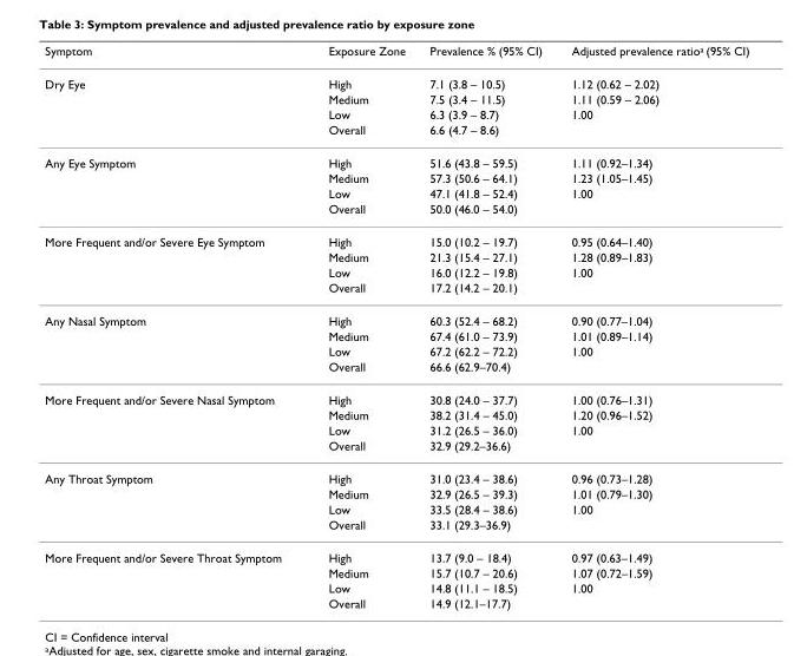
<table><thead><tr><td>Symptom</td><td>Exposure Zone</td><td>Prevalence % (95% CI)</td><td>Adjusted prevalence ratio<sup>a</sup> (95% CI)</td></tr></thead><tbody><tr><td rowspan="4">Dry Eye</td><td>High</td><td>7.1 (3.8 – 10.5)</td><td>1.12 (0.62 – 2.02)</td></tr><tr><td>Medium</td><td>7.5 (3.4 – 11.5)</td><td>1.11 (0.59 – 2.06)</td></tr><tr><td>Low</td><td>6.3 (3.9 – 8.7)</td><td>1.00</td></tr><tr><td>Overall</td><td>6.6 (4.7 – 8.6)</td><td></td></tr><tr><td rowspan="4">Any Eye Symptom</td><td>High</td><td>51.6 (43.8 – 59.5)</td><td>1.11 (0.92–1.34)</td></tr><tr><td>Medium</td><td>57.3 (50.6 – 64.1)</td><td>1.23 (1.05–1.45)</td></tr><tr><td>Low</td><td>47.1 (41.8 – 52.4)</td><td>1.00</td></tr><tr><td>Overall</td><td>50.0 (46.0 – 54.0)</td><td></td></tr><tr><td rowspan="4">More Frequent and/or Severe Eye Symptom</td><td>High</td><td>15.0 (10.2 – 19.7)</td><td>0.95 (0.64–1.40)</td></tr><tr><td>Medium</td><td>21.3 (15.4 – 27.1)</td><td>1.28 (0.89–1.83)</td></tr><tr><td>Low</td><td>16.0 (12.2 – 19.8)</td><td>1.00</td></tr><tr><td>Overall</td><td>17.2 (14.2 – 20.1)</td><td></td></tr><tr><td rowspan="4">Any Nasal Symptom</td><td>High</td><td>60.3 (52.4 – 68.2)</td><td>0.90 (0.77–1.04)</td></tr><tr><td>Medium</td><td>67.4 (61.0 – 73.9)</td><td>1.01 (0.89–1.14)</td></tr><tr><td>Low</td><td>67.2 (62.2 – 72.2)</td><td>1.00</td></tr><tr><td>Overall</td><td>66.6 (62.9–70.4)</td><td></td></tr><tr><td rowspan="4">More Frequent and/or Severe Nasal Symptom</td><td>High</td><td>30.8 (24.0 – 37.7)</td><td>1.00 (0.76–1.31)</td></tr><tr><td>Medium</td><td>38.2 (31.4 – 45.0)</td><td>1.20 (0.96–1.52)</td></tr><tr><td>Low</td><td>31.2 (26.5 – 36.0)</td><td>1.00</td></tr><tr><td>Overall</td><td>32.9 (29.2–36.6)</td><td></td></tr><tr><td rowspan="4">Any Throat Symptom</td><td>High</td><td>31.0 (23.4 – 38.6)</td><td>0.96 (0.73–1.28)</td></tr><tr><td>Medium</td><td>32.9 (26.5 – 39.3)</td><td>1.01 (0.79–1.30)</td></tr><tr><td>Low</td><td>33.5 (28.4 – 38.6)</td><td>1.00</td></tr><tr><td>Overall</td><td>33.1 (29.3–36.9)</td><td></td></tr><tr><td rowspan="4">More Frequent and/or Severe Throat Symptom</td><td>High</td><td>13.7 (9.0 – 18.4)</td><td>0.97 (0.63–1.49)</td></tr><tr><td>Medium</td><td>15.7 (10.7 – 20.6)</td><td>1.07 (0.72–1.59)</td></tr><tr><td>Low</td><td>14.8 (11.1 – 18.5)</td><td>1.00</td></tr><tr><td>Overall</td><td>14.9 (12.1–17.7)</td><td></td></tr></tbody></table>